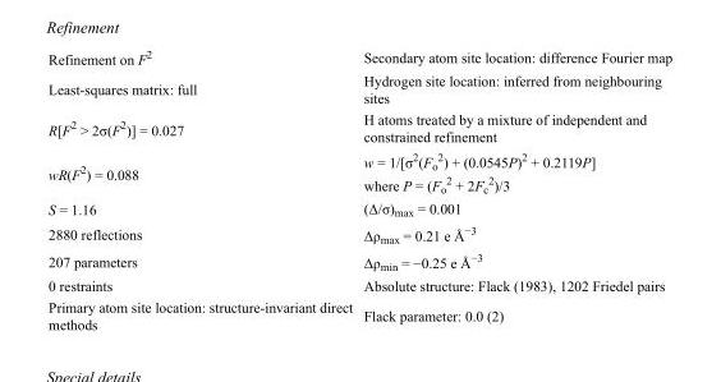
<table><tbody><tr><td>Refinement on F<sup>2</sup></td><td>Secondary atom site location: difference Fourier map</td></tr><tr><td>Least-squares matrix: full</td><td>Hydrogen site location: inferred from neighbouring sites</td></tr><tr><td>R[F<sup>2</sup> &gt; 2σ(F<sup>2</sup>)] = 0.027</td><td>H atoms treated by a mixture of independent and constrained refinement</td></tr><tr><td>wR(F<sup>2</sup>) = 0.088</td><td>w = 1/[σ<sup>2</sup>(F<sub>o</sub> <sup>2</sup>) + (0.0545P)<sup>2</sup> + 0.2119P] where P = (F<sub>o</sub> <sup>2</sup> + 2F<sub>c</sub> <sup>2</sup>)/3</td></tr><tr><td>S = 1.16</td><td>(Δ/σ)<sub>max</sub> = 0.001</td></tr><tr><td>2880 reflections</td><td>Δρ<sub>max</sub> = 0.21 e Å<sup>−3</sup></td></tr><tr><td>207 parameters</td><td>Δρ<sub>min</sub> = −0.25 e Å<sup>−3</sup></td></tr><tr><td>0 restraints</td><td>Absolute structure: Flack (1983), 1202 Friedel pairs</td></tr><tr><td>Primary atom site location: structure-invariant direct methods</td><td>Flack parameter: 0.0 (2)</td></tr></tbody></table>